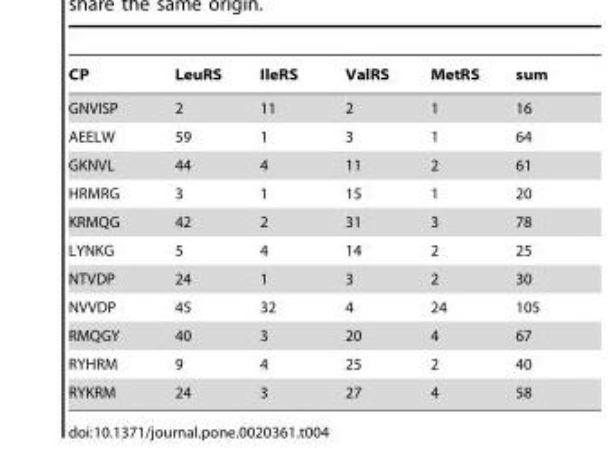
<table><thead><tr><td>CP</td><td>LeuRS</td><td>IleRS</td><td>ValRS</td><td>MetRS</td><td>sum</td></tr></thead><tbody><tr><td>GNVISP</td><td>2</td><td>11</td><td>2</td><td>1</td><td>16</td></tr><tr><td>AEELW</td><td>59</td><td>1</td><td>3</td><td>1</td><td>64</td></tr><tr><td>GKNVL</td><td>44</td><td>4</td><td>11</td><td>2</td><td>61</td></tr><tr><td>HRMRG</td><td>3</td><td>1</td><td>15</td><td>1</td><td>20</td></tr><tr><td>KRMQG</td><td>42</td><td>2</td><td>31</td><td>3</td><td>78</td></tr><tr><td>LYNKG</td><td>5</td><td>4</td><td>14</td><td>2</td><td>25</td></tr><tr><td>NTVDP</td><td>24</td><td>1</td><td>3</td><td>2</td><td>30</td></tr><tr><td>NVVDP</td><td>45</td><td>32</td><td>4</td><td>24</td><td>105</td></tr><tr><td>RMQGY</td><td>40</td><td>3</td><td>20</td><td>4</td><td>67</td></tr><tr><td>RYHRM</td><td>9</td><td>4</td><td>25</td><td>2</td><td>40</td></tr><tr><td>RYKRM</td><td>24</td><td>3</td><td>27</td><td>4</td><td>58</td></tr></tbody></table>